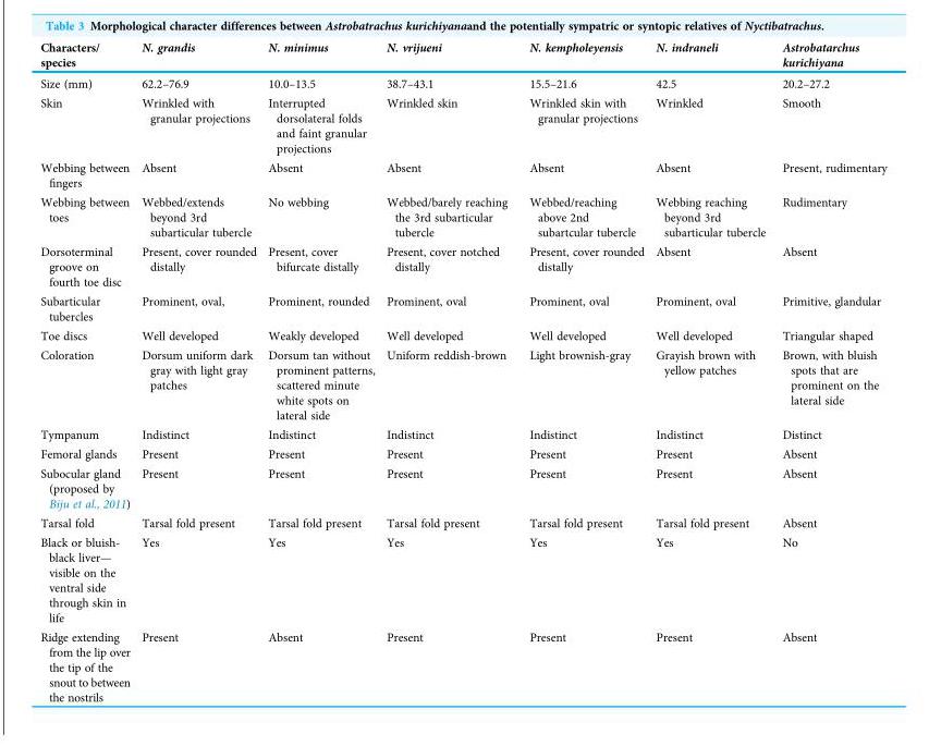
<table><thead><tr><td>Characters/ species</td><td>N. grandis</td><td>N. minimus</td><td>N. vrijueni</td><td>N. kempholeyensis</td><td>N. indraneli</td><td>Astrobatarchus kurichiyana</td></tr></thead><tbody><tr><td>Size (mm)</td><td>62.2–76.9</td><td>10.0–13.5</td><td>38.7–43.1</td><td>15.5–21.6</td><td>42.5</td><td>20.2–27.2</td></tr><tr><td>Skin</td><td>Wrinkled with granular projections</td><td>Interrupted dorsolateral folds and faint granular projections</td><td>Wrinkled skin</td><td>Wrinkled skin with granular projections</td><td>Wrinkled</td><td>Smooth</td></tr><tr><td>Webbing between fingers</td><td>Absent</td><td>Absent</td><td>Absent</td><td>Absent</td><td>Absent</td><td>Present, rudimentary</td></tr><tr><td>Webbing between toes</td><td>Webbed/extends beyond 3rd subarticular tubercle</td><td>No webbing</td><td>Webbed/barely reaching the 3rd subarticular tubercle</td><td>Webbed/reaching above 2nd subartcular tubercle</td><td>Webbing reaching beyond 3rd subarticular tubercle</td><td>Rudimentary</td></tr><tr><td>Dorsoterminal groove on fourth toe disc</td><td>Present, cover rounded distally</td><td>Present, cover bifurcate distally</td><td>Present, cover notched distally</td><td>Present, cover rounded distally</td><td>Absent</td><td>Absent</td></tr><tr><td>Subarticular tubercles</td><td>Prominent, oval,</td><td>Prominent, rounded</td><td>Prominent, oval</td><td>Prominent, oval</td><td>Prominent, oval</td><td>Primitive, glandular</td></tr><tr><td>Toe discs</td><td>Well developed</td><td>Weakly developed</td><td>Well developed</td><td>Well developed</td><td>Well developed</td><td>Triangular shaped</td></tr><tr><td>Coloration</td><td>Dorsum uniform dark gray with light gray patches</td><td>Dorsum tan without prominent patterns, scattered minute white spots on lateral side</td><td>Uniform reddish-brown</td><td>Light brownish-gray</td><td>Grayish brown with yellow patches</td><td>Brown, with bluish spots that are prominent on the lateral side</td></tr><tr><td>Tympanum</td><td>Indistinct</td><td>Indistinct</td><td>Indistinct</td><td>Indistinct</td><td>Indistinct</td><td>Distinct</td></tr><tr><td>Femoral glands</td><td>Present</td><td>Present</td><td>Present</td><td>Present</td><td>Present</td><td>Absent</td></tr><tr><td>Subocular gland (proposed by Biju et al., 2011)</td><td>Present</td><td>Present</td><td>Present</td><td>Present</td><td>Present</td><td>Absent</td></tr><tr><td>Tarsal fold</td><td>Tarsal fold present</td><td>Tarsal fold present</td><td>Tarsal fold present</td><td>Tarsal fold present</td><td>Tarsal fold present</td><td>Absent</td></tr><tr><td>Black or bluish- black liver— visible on the ventral side through skin in life</td><td>Yes</td><td>Yes</td><td>Yes</td><td>Yes</td><td>Yes</td><td>No</td></tr><tr><td>Ridge extending from the lip over the tip of the snout to between the nostrils</td><td>Present</td><td>Absent</td><td>Present</td><td>Present</td><td>Present</td><td>Absent</td></tr></tbody></table>